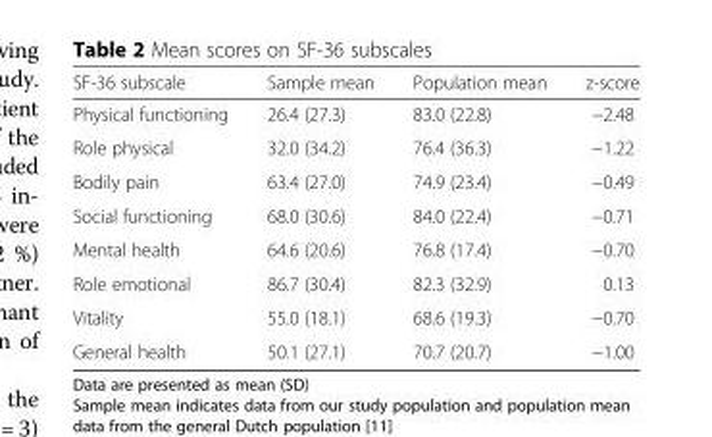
<table><thead><tr><td>SF-36 subscale</td><td>Sample mean</td><td>Population mean</td><td>z-score</td></tr></thead><tbody><tr><td>Physical functioning</td><td>26.4 (27.3)</td><td>83.0 (22.8)</td><td>−2.48</td></tr><tr><td>Role physical</td><td>32.0 (34.2)</td><td>76.4 (36.3)</td><td>−1.22</td></tr><tr><td>Bodily pain</td><td>63.4 (27.0)</td><td>74.9 (23.4)</td><td>−0.49</td></tr><tr><td>Social functioning</td><td>68.0 (30.6)</td><td>84.0 (22.4)</td><td>−0.71</td></tr><tr><td>Mental health</td><td>64.6 (20.6)</td><td>76.8 (17.4)</td><td>−0.70</td></tr><tr><td>Role emotional</td><td>86.7 (30.4)</td><td>82.3 (32.9)</td><td>0.13</td></tr><tr><td>Vitality</td><td>55.0 (18.1)</td><td>68.6 (19.3)</td><td>−0.70</td></tr><tr><td>General health</td><td>50.1 (27.1)</td><td>70.7 (20.7)</td><td>−1.00</td></tr></tbody></table>